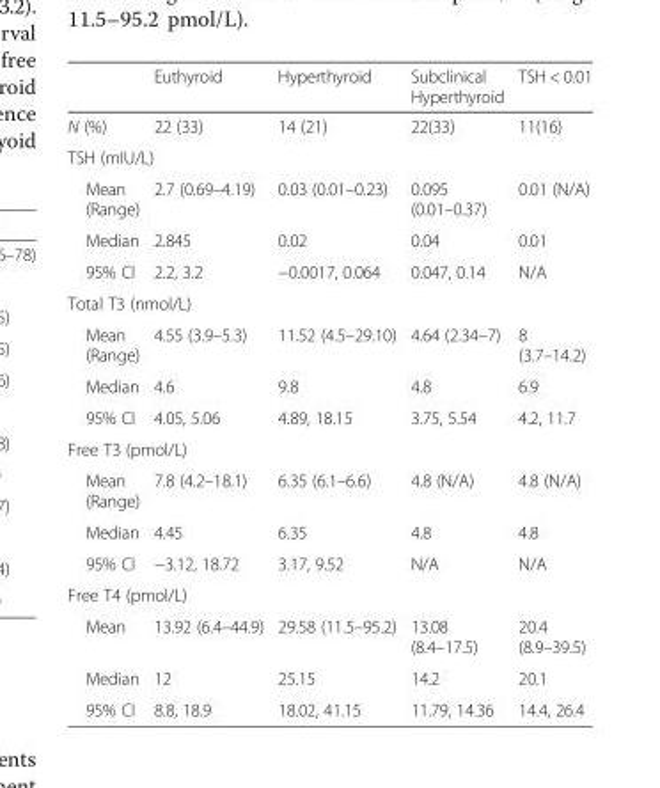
<table><thead><tr><td></td><td>Euthyroid</td><td>Hyperthyroid</td><td>Subclinical Hyperthyroid</td><td>TSH &lt; 0.01</td></tr></thead><tbody><tr><td>N (%)</td><td>22 (33)</td><td>14 (21)</td><td>22(33)</td><td>11(16)</td></tr><tr><td colspan="5">TSH (mIU/L)</td></tr><tr><td>Mean (Range)</td><td>2.7 (0.69–4.19)</td><td>0.03 (0.01–0.23)</td><td>0.095 (0.01–0.37)</td><td>0.01 (N/A)</td></tr><tr><td>Median</td><td>2.845</td><td>0.02</td><td>0.04</td><td>0.01</td></tr><tr><td>95% CI</td><td>2.2, 3.2</td><td>−0.0017, 0.064</td><td>0.047, 0.14</td><td>N/A</td></tr><tr><td colspan="5">Total T3 (nmol/L)</td></tr><tr><td>Mean (Range)</td><td>4.55 (3.9–5.3)</td><td>11.52 (4.5–29.10)</td><td>4.64 (2.34–7)</td><td>8 (3.7–14.2)</td></tr><tr><td>Median</td><td>4.6</td><td>9.8</td><td>4.8</td><td>6.9</td></tr><tr><td>95% CI</td><td>4.05, 5.06</td><td>4.89, 18.15</td><td>3.75, 5.54</td><td>4.2, 11.7</td></tr><tr><td colspan="5">Free T3 (pmol/L)</td></tr><tr><td>Mean (Range)</td><td>7.8 (4.2–18.1)</td><td>6.35 (6.1–6.6)</td><td>4.8 (N/A)</td><td>4.8 (N/A)</td></tr><tr><td>Median</td><td>4.45</td><td>6.35</td><td>4.8</td><td>4.8</td></tr><tr><td>95% CI</td><td>−3.12, 18.72</td><td>3.17, 9.52</td><td>N/A</td><td>N/A</td></tr><tr><td colspan="5">Free T4 (pmol/L)</td></tr><tr><td>Mean</td><td>13.92 (6.4–44.9)</td><td>29.58 (11.5–95.2)</td><td>13.08 (8.4–17.5)</td><td>20.4 (8.9–39.5)</td></tr><tr><td>Median</td><td>12</td><td>25.15</td><td>14.2</td><td>20.1</td></tr><tr><td>95% CI</td><td>8.8, 18.9</td><td>18.02, 41.15</td><td>11.79, 14.36</td><td>14.4, 26.4</td></tr></tbody></table>